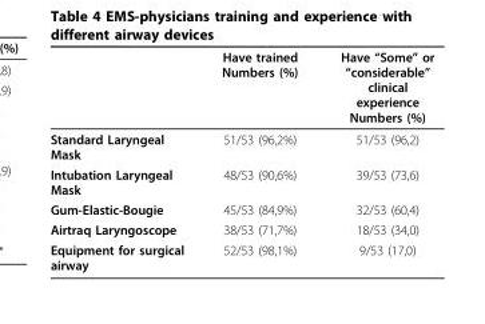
<table><thead><tr><td></td><td>Have trained Numbers (%)</td><td>Have “Some” or “considerable” clinical experience Numbers (%)</td></tr></thead><tbody><tr><td>Standard Laryngeal Mask</td><td>51/53 (96,2%)</td><td>51/53 (96,2)</td></tr><tr><td>Intubation Laryngeal Mask</td><td>48/53 (90,6%)</td><td>39/53 (73,6)</td></tr><tr><td>Gum-Elastic-Bougie</td><td>45/53 (84,9%)</td><td>32/53 (60,4)</td></tr><tr><td>Airtraq Laryngoscope</td><td>38/53 (71,7%)</td><td>18/53 (34,0)</td></tr><tr><td>Equipment for surgical airway</td><td>52/53 (98,1%)</td><td>9/53 (17,0)</td></tr></tbody></table>